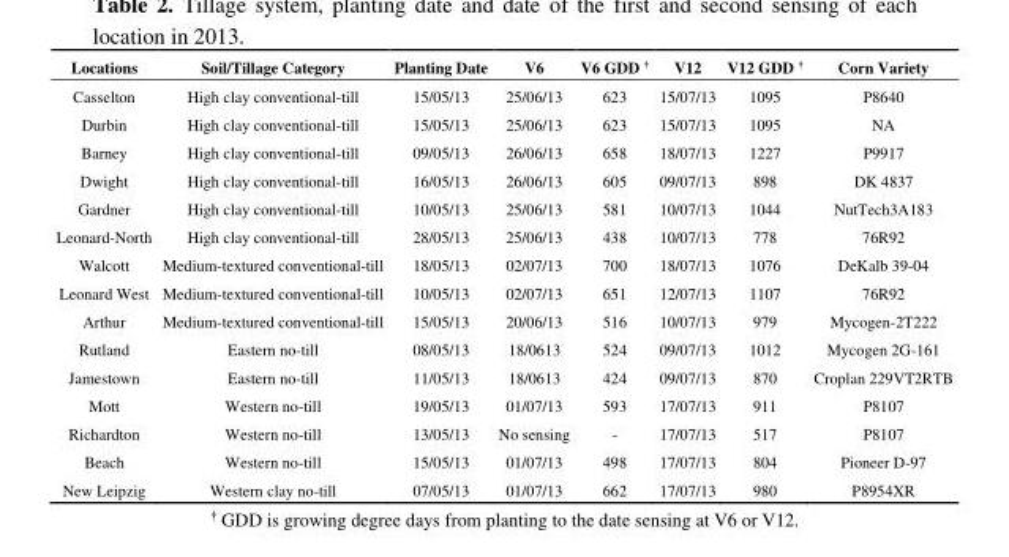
<table><thead><tr><td>Locations</td><td>Soil/Tillage Category</td><td>Planting Date</td><td>V6</td><td>V6 GDD <sup>†</sup></td><td>V12</td><td>V12 GDD <sup>†</sup></td><td>Corn Variety</td></tr></thead><tbody><tr><td>Casselton</td><td>High clay conventional-till</td><td>15/05/13</td><td>25/06/13</td><td>623</td><td>15/07/13</td><td>1095</td><td>P8640</td></tr><tr><td>Durbin</td><td>High clay conventional-till</td><td>15/05/13</td><td>25/06/13</td><td>623</td><td>15/07/13</td><td>1095</td><td>NA</td></tr><tr><td>Barney</td><td>High clay conventional-till</td><td>09/05/13</td><td>26/06/13</td><td>658</td><td>18/07/13</td><td>1227</td><td>P9917</td></tr><tr><td>Dwight</td><td>High clay conventional-till</td><td>16/05/13</td><td>26/06/13</td><td>605</td><td>09/07/13</td><td>898</td><td>DK 4837</td></tr><tr><td>Gardner</td><td>High clay conventional-till</td><td>10/05/13</td><td>25/06/13</td><td>581</td><td>10/07/13</td><td>1044</td><td>NutTech3A183</td></tr><tr><td>Leonard-North</td><td>High clay conventional-till</td><td>28/05/13</td><td>25/06/13</td><td>438</td><td>10/07/13</td><td>778</td><td>76R92</td></tr><tr><td>Walcott</td><td>Medium-textured conventional-till</td><td>18/05/13</td><td>02/07/13</td><td>700</td><td>18/07/13</td><td>1076</td><td>DeKalb 39-04</td></tr><tr><td>Leonard West</td><td>Medium-textured conventional-till</td><td>10/05/13</td><td>02/07/13</td><td>651</td><td>12/07/13</td><td>1107</td><td>76R92</td></tr><tr><td>Arthur</td><td>Medium-textured conventional-till</td><td>15/05/13</td><td>20/06/13</td><td>516</td><td>10/07/13</td><td>979</td><td>Mycogen-2T222</td></tr><tr><td>Rutland</td><td>Eastern no-till</td><td>08/05/13</td><td>18/0613</td><td>524</td><td>09/07/13</td><td>1012</td><td>Mycogen 2G-161</td></tr><tr><td>Jamestown</td><td>Eastern no-till</td><td>11/05/13</td><td>18/0613</td><td>424</td><td>09/07/13</td><td>870</td><td>Croplan 229VT2RTB</td></tr><tr><td>Mott</td><td>Western no-till</td><td>19/05/13</td><td>01/07/13</td><td>593</td><td>17/07/13</td><td>911</td><td>P8107</td></tr><tr><td>Richardton</td><td>Western no-till</td><td>13/05/13</td><td>No sensing</td><td>-</td><td>17/07/13</td><td>517</td><td>P8107</td></tr><tr><td>Beach</td><td>Western no-till</td><td>15/05/13</td><td>01/07/13</td><td>498</td><td>17/07/13</td><td>804</td><td>Pioneer D-97</td></tr><tr><td>New Leipzig</td><td>Western clay no-till</td><td>07/05/13</td><td>01/07/13</td><td>662</td><td>17/07/13</td><td>980</td><td>P8954XR</td></tr></tbody></table>